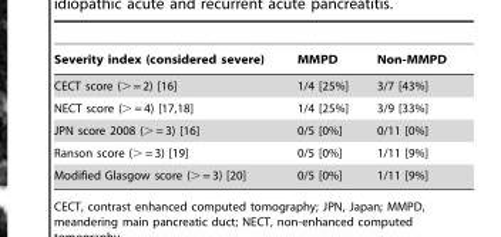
<table><thead><tr><td>Severity index (considered severe)</td><td>MMPD</td><td>Non-MMPD</td></tr></thead><tbody><tr><td>CECT score (&gt; = 2) [16]</td><td>1/4 [25%]</td><td>3/7 [43%]</td></tr><tr><td>NECT score (. = 4) [17,18]</td><td>1/4 [25%]</td><td>3/9 [33%]</td></tr><tr><td>JPN score 2008 (&gt; = 3) [16]</td><td>0/5 [0%]</td><td>0/11 [0%]</td></tr><tr><td>Ranson score (&gt; = 3) [19]</td><td>0/5 [0%]</td><td>1/11 [9%]</td></tr><tr><td>Modified Glasgow score (&gt; = 3) [20]</td><td>0/5 [0%]</td><td>1/11 [9%]</td></tr></tbody></table>